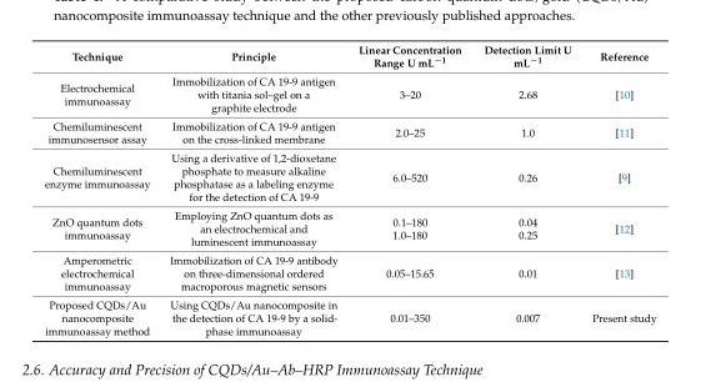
<table><thead><tr><td>Technique</td><td>Principle</td><td>Linear Concentration Range U mL−1</td><td>Detection Limit U mL−1</td><td>Reference</td></tr></thead><tbody><tr><td>Electrochemical immunoassay</td><td>Immobilization of CA 19-9 antigen with titania sol–gel on a graphite electrode</td><td>3–20</td><td>2.68</td><td>[10]</td></tr><tr><td>Chemiluminescent immunosensor assay</td><td>Immobilization of CA 19-9 antigen on the cross-linked membrane</td><td>2.0–25</td><td>1.0</td><td>[11]</td></tr><tr><td>Chemiluminescent enzyme immunoassay</td><td>Using a derivative of 1,2-dioxetane phosphate to measure alkaline phosphatase as a labeling enzyme for the detection of CA 19-9</td><td>6.0–520</td><td>0.26</td><td>[9]</td></tr><tr><td>ZnO quantum dots immunoassay</td><td>Employing ZnO quantum dots as an electrochemical and luminescent immunoassay</td><td>0.1–180 1.0–180</td><td>0.04 0.25</td><td>[12]</td></tr><tr><td>Amperometric electrochemical immunoassay</td><td>Immobilization of CA 19-9 antibody on three-dimensional ordered macroporous magnetic sensors</td><td>0.05–15.65</td><td>0.01</td><td>[13]</td></tr><tr><td>Proposed CQDs/Au nanocomposite immunoassay method</td><td>Using CQDs/Au nanocomposite in the detection of CA 19-9 by a solid- phase immunoassay</td><td>0.01–350</td><td>0.007</td><td>Present study</td></tr></tbody></table>